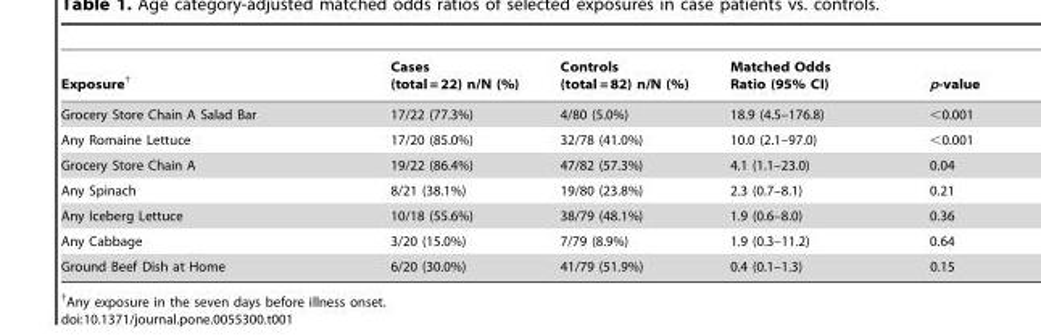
<table><thead><tr><td>Exposure†</td><td>Cases (total = 22) n/N (%)</td><td>Controls (total = 82) n/N (%)</td><td>Matched Odds Ratio (95% CI)</td><td>p-value</td></tr></thead><tbody><tr><td>Grocery Store Chain A Salad Bar</td><td>17/22 (77.3%)</td><td>4/80 (5.0%)</td><td>18.9 (4.5–176.8)</td><td>&lt;0.001</td></tr><tr><td>Any Romaine Lettuce</td><td>17/20 (85.0%)</td><td>32/78 (41.0%)</td><td>10.0 (2.1–97.0)</td><td>&lt;0.001</td></tr><tr><td>Grocery Store Chain A</td><td>19/22 (86.4%)</td><td>47/82 (57.3%)</td><td>4.1 (1.1–23.0)</td><td>0.04</td></tr><tr><td>Any Spinach</td><td>8/21 (38.1%)</td><td>19/80 (23.8%)</td><td>2.3 (0.7–8.1)</td><td>0.21</td></tr><tr><td>Any Iceberg Lettuce</td><td>10/18 (55.6%)</td><td>38/79 (48.1%)</td><td>1.9 (0.6–8.0)</td><td>0.36</td></tr><tr><td>Any Cabbage</td><td>3/20 (15.0%)</td><td>7/79 (8.9%)</td><td>1.9 (0.3–11.2)</td><td>0.64</td></tr><tr><td>Ground Beef Dish at Home</td><td>6/20 (30.0%)</td><td>41/79 (51.9%)</td><td>0.4 (0.1–1.3)</td><td>0.15</td></tr></tbody></table>